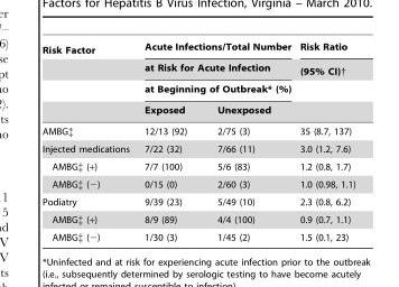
<table><thead><tr><td rowspan="4">Risk Factor</td><td rowspan="3" colspan="2">Acute Infections/Total Number at Risk for Acute Infection at Beginning of Outbreak* (%)</td><td rowspan="4">Risk Ratio (95% CI)†</td></tr><tr></tr><tr></tr><tr><td>Exposed</td><td>Unexposed</td></tr></thead><tbody><tr><td>AMBG‡</td><td>12/13 (92)</td><td>2/75 (3)</td><td>35 (8.7, 137)</td></tr><tr><td>Injected medications</td><td>7/22 (32)</td><td>7/66 (11)</td><td>3.0 (1.2, 7.6)</td></tr><tr><td>AMBG‡ (+)</td><td>7/7 (100)</td><td>5/6 (83)</td><td>1.2 (0.8, 1.7)</td></tr><tr><td>AMBG‡ (−)</td><td>0/15 (0)</td><td>2/60 (3)</td><td>1.0 (0.98, 1.1)</td></tr><tr><td>Podiatry</td><td>9/39 (23)</td><td>5/49 (10)</td><td>2.3 (0.8, 6.2)</td></tr><tr><td>AMBG‡ (+)</td><td>8/9 (89)</td><td>4/4 (100)</td><td>0.9 (0.7, 1.1)</td></tr><tr><td>AMBG‡ (−)</td><td>1/30 (3)</td><td>1/45 (2)</td><td>1.5 (0.1, 23)</td></tr></tbody></table>